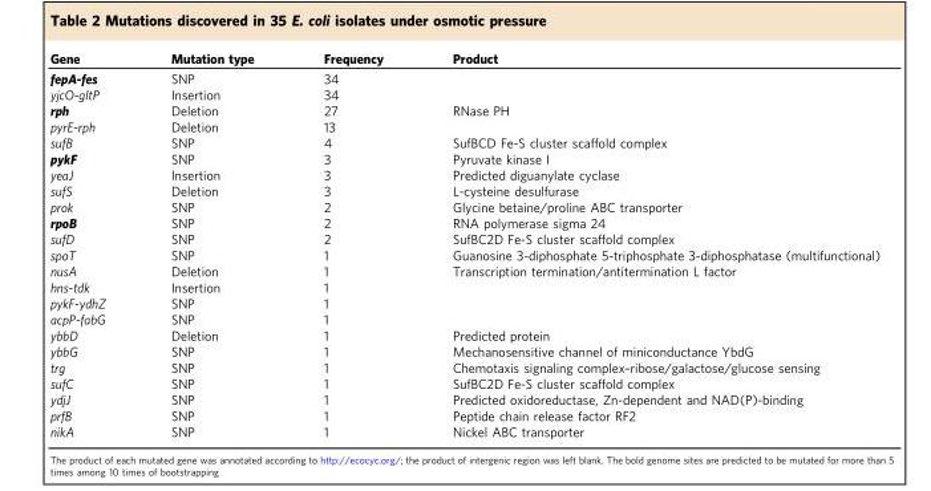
<table><thead><tr><td>Gene</td><td>Mutation type</td><td>Frequency</td><td>Product</td></tr></thead><tbody><tr><td>fepA-fes</td><td>SNP</td><td>34</td><td></td></tr><tr><td>yjcO-gltP</td><td>Insertion</td><td>34</td><td></td></tr><tr><td>rph</td><td>Deletion</td><td>27</td><td>RNase PH</td></tr><tr><td>pyrE-rph</td><td>Deletion</td><td>13</td><td></td></tr><tr><td>sufB</td><td>SNP</td><td>4</td><td>SufBCD Fe-S cluster scaffold complex</td></tr><tr><td>pykF</td><td>SNP</td><td>3</td><td>Pyruvate kinase I</td></tr><tr><td>yeaJ</td><td>Insertion</td><td>3</td><td>Predicted diguanylate cyclase</td></tr><tr><td>sufS</td><td>Deletion</td><td>3</td><td>L-cysteine desulfurase</td></tr><tr><td>prok</td><td>SNP</td><td>2</td><td>Glycine betaine/proline ABC transporter</td></tr><tr><td>rpoB</td><td>SNP</td><td>2</td><td>RNA polymerase sigma 24</td></tr><tr><td>sufD</td><td>SNP</td><td>2</td><td>SufBC2D Fe-S cluster scaffold complex</td></tr><tr><td>spoT</td><td>SNP</td><td>1</td><td>Guanosine 3-diphosphate 5-triphosphate 3-diphosphatase (multifunctional)</td></tr><tr><td>nusA</td><td>Deletion</td><td>1</td><td>Transcription termination/antitermination L factor</td></tr><tr><td>hns-tdk</td><td>Insertion</td><td>1</td><td></td></tr><tr><td>pykF-ydhZ</td><td>SNP</td><td>1</td><td></td></tr><tr><td>acpP-fabG</td><td>SNP</td><td>1</td><td></td></tr><tr><td>ybbD</td><td>Deletion</td><td>1</td><td>Predicted protein</td></tr><tr><td>ybbG</td><td>SNP</td><td>1</td><td>Mechanosensitive channel of miniconductance YbdG</td></tr><tr><td>trg</td><td>SNP</td><td>1</td><td>Chemotaxis signaling complex–ribose/galactose/glucose sensing</td></tr><tr><td>sufC</td><td>SNP</td><td>1</td><td>SufBC2D Fe-S cluster scaffold complex</td></tr><tr><td>ydjJ</td><td>SNP</td><td>1</td><td>Predicted oxidoreductase, Zn-dependent and NAD(P)-binding</td></tr><tr><td>prfB</td><td>SNP</td><td>1</td><td>Peptide chain release factor RF2</td></tr><tr><td>nikA</td><td>SNP</td><td>1</td><td>Nickel ABC transporter</td></tr></tbody></table>